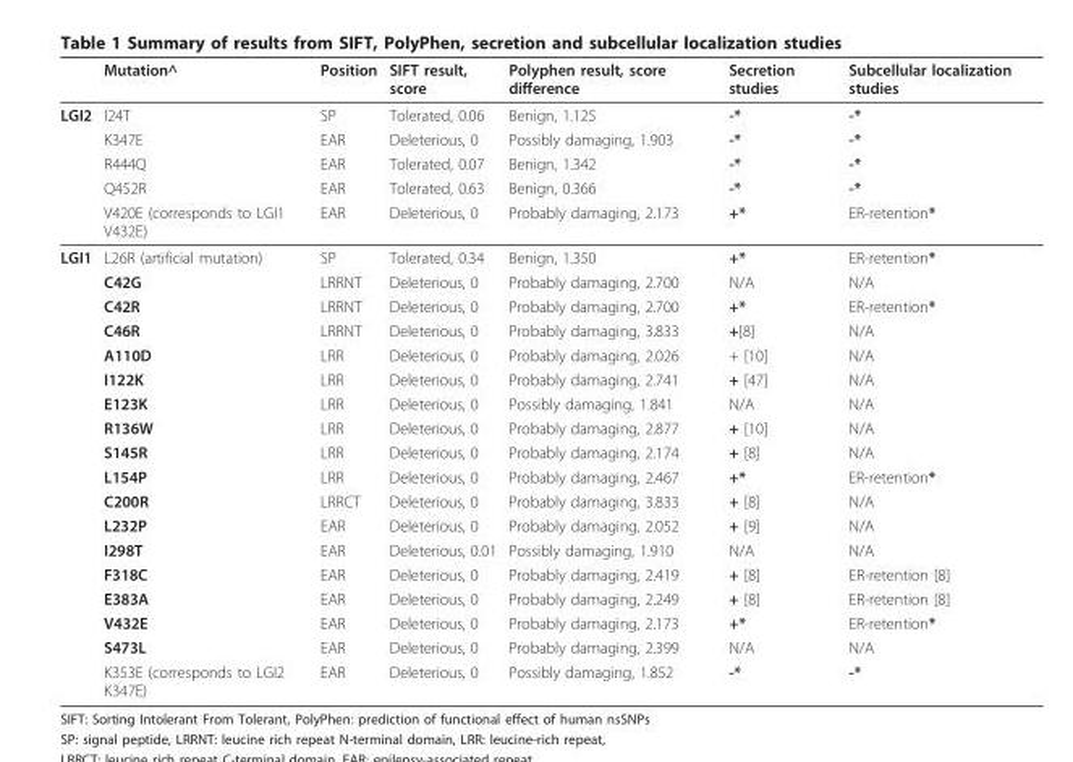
<table><thead><tr><td></td><td>Mutation^</td><td>Position</td><td>SIFT result, score</td><td>Polyphen result, score difference</td><td>Secretion studies</td><td>Subcellular localization studies</td></tr></thead><tbody><tr><td rowspan="5">LGI2</td><td>I24T</td><td>SP</td><td>Tolerated, 0.06</td><td>Benign, 1.125</td><td>-*</td><td>-*</td></tr><tr><td>K347E</td><td>EAR</td><td>Deleterious, 0</td><td>Possibly damaging, 1.903</td><td>-*</td><td>-*</td></tr><tr><td>R444Q</td><td>EAR</td><td>Tolerated, 0.07</td><td>Benign, 1.342</td><td>-*</td><td>-*</td></tr><tr><td>Q452R</td><td>EAR</td><td>Tolerated, 0.63</td><td>Benign, 0.366</td><td>-*</td><td>-*</td></tr><tr><td>V420E (corresponds to LGI1 V432E)</td><td>EAR</td><td>Deleterious, 0</td><td>Probably damaging, 2.173</td><td>+*</td><td>ER-retention*</td></tr><tr><td rowspan="18">LGI1</td><td>L26R (artificial mutation)</td><td>SP</td><td>Tolerated, 0.34</td><td>Benign, 1.350</td><td>+*</td><td>ER-retention*</td></tr><tr><td>C42G</td><td>LRRNT</td><td>Deleterious, 0</td><td>Probably damaging, 2.700</td><td>N/A</td><td>N/A</td></tr><tr><td>C42R</td><td>LRRNT</td><td>Deleterious, 0</td><td>Probably damaging, 2.700</td><td>+*</td><td>ER-retention*</td></tr><tr><td>C46R</td><td>LRRNT</td><td>Deleterious, 0</td><td>Probably damaging, 3.833</td><td>+[8]</td><td>N/A</td></tr><tr><td>A110D</td><td>LRR</td><td>Deleterious, 0</td><td>Probably damaging, 2.026</td><td>+ [10]</td><td>N/A</td></tr><tr><td>I122K</td><td>LRR</td><td>Deleterious, 0</td><td>Probably damaging, 2.741</td><td>+ [47]</td><td>N/A</td></tr><tr><td>E123K</td><td>LRR</td><td>Deleterious, 0</td><td>Possibly damaging, 1.841</td><td>N/A</td><td>N/A</td></tr><tr><td>R136W</td><td>LRR</td><td>Deleterious, 0</td><td>Probably damaging, 2.877</td><td>+ [10]</td><td>N/A</td></tr><tr><td>S145R</td><td>LRR</td><td>Deleterious, 0</td><td>Probably damaging, 2.174</td><td>+ [8]</td><td>N/A</td></tr><tr><td>L154P</td><td>LRR</td><td>Deleterious, 0</td><td>Probably damaging, 2.467</td><td>+*</td><td>ER-retention*</td></tr><tr><td>C200R</td><td>LRRCT</td><td>Deleterious, 0</td><td>Probably damaging, 3.833</td><td>+ [8]</td><td>N/A</td></tr><tr><td>L232P</td><td>EAR</td><td>Deleterious, 0</td><td>Probably damaging, 2.052</td><td>+ [9]</td><td>N/A</td></tr><tr><td>I298T</td><td>EAR</td><td>Deleterious, 0.01</td><td>Possibly damaging, 1.910</td><td>N/A</td><td>N/A</td></tr><tr><td>F318C</td><td>EAR</td><td>Deleterious, 0</td><td>Probably damaging, 2.419</td><td>+ [8]</td><td>ER-retention [8]</td></tr><tr><td>E383A</td><td>EAR</td><td>Deleterious, 0</td><td>Probably damaging, 2.249</td><td>+ [8]</td><td>ER-retention [8]</td></tr><tr><td>V432E</td><td>EAR</td><td>Deleterious, 0</td><td>Probably damaging, 2.173</td><td>+*</td><td>ER-retention*</td></tr><tr><td>S473L</td><td>EAR</td><td>Deleterious, 0</td><td>Probably damaging, 2.399</td><td>N/A</td><td>N/A</td></tr><tr><td>K353E (corresponds to LGI2 K347E)</td><td>EAR</td><td>Deleterious, 0</td><td>Possibly damaging, 1.852</td><td>-*</td><td>-*</td></tr></tbody></table>